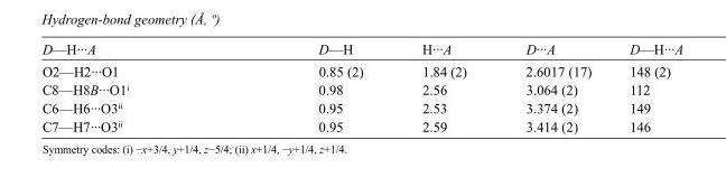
<table><tbody><tr><td>D—H···A</td><td>D—H</td><td>H···A</td><td>D···A</td><td>D—H···A</td></tr><tr><td>O2—H2···O1</td><td>0.85 (2)</td><td>1.84 (2)</td><td>2.6017 (17)</td><td>148 (2)</td></tr><tr><td>C8—H8B···O1<sup>i</sup></td><td>0.98</td><td>2.56</td><td>3.064 (2)</td><td>112</td></tr><tr><td>C6—H6···O3<sup>ii</sup></td><td>0.95</td><td>2.53</td><td>3.374 (2)</td><td>149</td></tr><tr><td>C7—H7···O3<sup>ii</sup></td><td>0.95</td><td>2.59</td><td>3.414 (2)</td><td>146</td></tr></tbody></table>